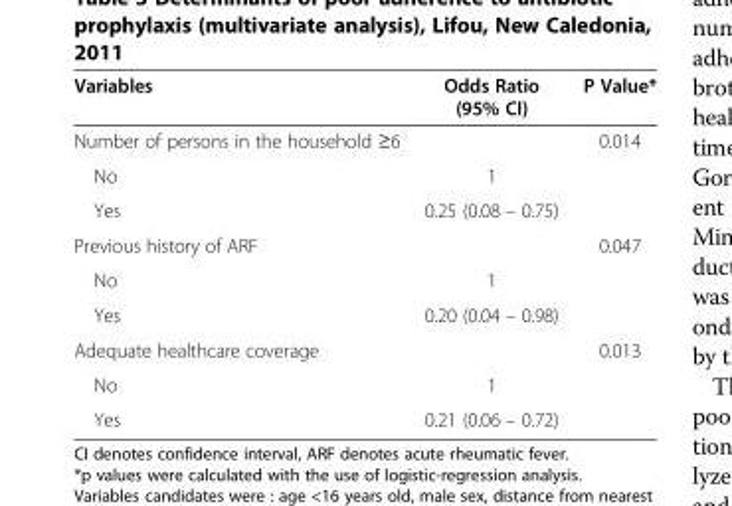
<table><thead><tr><td>Variables</td><td>Odds Ratio (95% CI)</td><td>P Value*</td></tr></thead><tbody><tr><td>Number of persons in the household ≥6</td><td></td><td>0.014</td></tr><tr><td>No</td><td>1</td><td></td></tr><tr><td>Yes</td><td>0.25 (0.08 – 0.75)</td><td></td></tr><tr><td>Previous history of ARF</td><td></td><td>0.047</td></tr><tr><td>No</td><td>1</td><td></td></tr><tr><td>Yes</td><td>0.20 (0.04 – 0.98)</td><td></td></tr><tr><td>Adequate healthcare coverage</td><td></td><td>0.013</td></tr><tr><td>No</td><td>1</td><td></td></tr><tr><td>Yes</td><td>0.21 (0.06 – 0.72)</td><td></td></tr></tbody></table>